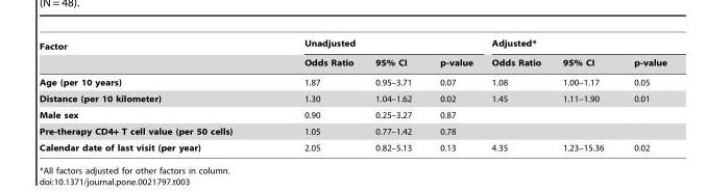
<table><thead><tr><td rowspan="2">Factor</td><td colspan="3">Unadjusted</td><td colspan="3">Adjusted*</td></tr><tr><td>Odds Ratio</td><td>95% CI</td><td>p-value</td><td>Odds Ratio</td><td>95% CI</td><td>p-value</td></tr></thead><tbody><tr><td>Age (per 10 years)</td><td>1.87</td><td>0.95–3.71</td><td>0.07</td><td>1.08</td><td>1.00–1.17</td><td>0.05</td></tr><tr><td>Distance (per 10 kilometer)</td><td>1.30</td><td>1.04–1.62</td><td>0.02</td><td>1.45</td><td>1.11–1.90</td><td>0.01</td></tr><tr><td>Male sex</td><td>0.90</td><td>0.25–3.27</td><td>0.87</td><td></td><td></td><td></td></tr><tr><td>Pre-therapy CD4+ T cell value (per 50 cells)</td><td>1.05</td><td>0.77–1.42</td><td>0.78</td><td></td><td></td><td></td></tr><tr><td>Calendar date of last visit (per year)</td><td>2.05</td><td>0.82–5.13</td><td>0.13</td><td>4.35</td><td>1.23–15.36</td><td>0.02</td></tr></tbody></table>